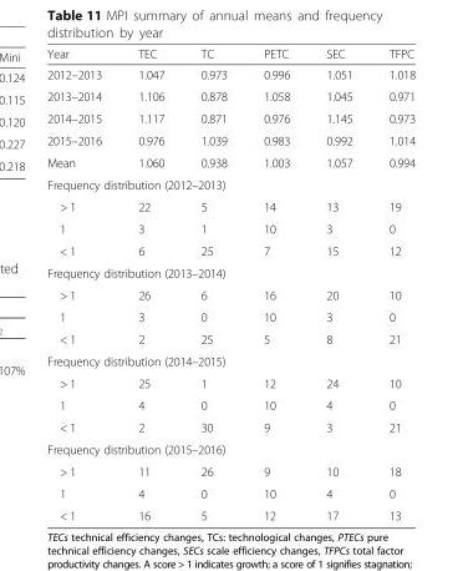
<table><thead><tr><td>Year</td><td>TEC</td><td>TC</td><td>PETC</td><td>SEC</td><td>TFPC</td></tr></thead><tbody><tr><td>2012–2013</td><td>1.047</td><td>0.973</td><td>0.996</td><td>1.051</td><td>1.018</td></tr><tr><td>2013–2014</td><td>1.106</td><td>0.878</td><td>1.058</td><td>1.045</td><td>0.971</td></tr><tr><td>2014–2015</td><td>1.117</td><td>0.871</td><td>0.976</td><td>1.145</td><td>0.973</td></tr><tr><td>2015–2016</td><td>0.976</td><td>1.039</td><td>0.983</td><td>0.992</td><td>1.014</td></tr><tr><td>Mean</td><td>1.060</td><td>0.938</td><td>1.003</td><td>1.057</td><td>0.994</td></tr><tr><td colspan="6">Frequency distribution (2012–2013)</td></tr><tr><td>&gt; 1</td><td>22</td><td>5</td><td>14</td><td>13</td><td>19</td></tr><tr><td>1</td><td>3</td><td>1</td><td>10</td><td>3</td><td>0</td></tr><tr><td>&lt; 1</td><td>6</td><td>25</td><td>7</td><td>15</td><td>12</td></tr><tr><td colspan="6">Frequency distribution (2013–2014)</td></tr><tr><td>&gt; 1</td><td>26</td><td>6</td><td>16</td><td>20</td><td>10</td></tr><tr><td>1</td><td>3</td><td>0</td><td>10</td><td>3</td><td>0</td></tr><tr><td>&lt; 1</td><td>2</td><td>25</td><td>5</td><td>8</td><td>21</td></tr><tr><td colspan="6">Frequency distribution (2014–2015)</td></tr><tr><td>&gt; 1</td><td>25</td><td>1</td><td>12</td><td>24</td><td>10</td></tr><tr><td>1</td><td>4</td><td>0</td><td>10</td><td>4</td><td>0</td></tr><tr><td>&lt; 1</td><td>2</td><td>30</td><td>9</td><td>3</td><td>21</td></tr><tr><td colspan="6">Frequency distribution (2015–2016)</td></tr><tr><td>&gt; 1</td><td>11</td><td>26</td><td>9</td><td>10</td><td>18</td></tr><tr><td>1</td><td>4</td><td>0</td><td>10</td><td>4</td><td>0</td></tr><tr><td>&lt; 1</td><td>16</td><td>5</td><td>12</td><td>17</td><td>13</td></tr></tbody></table>